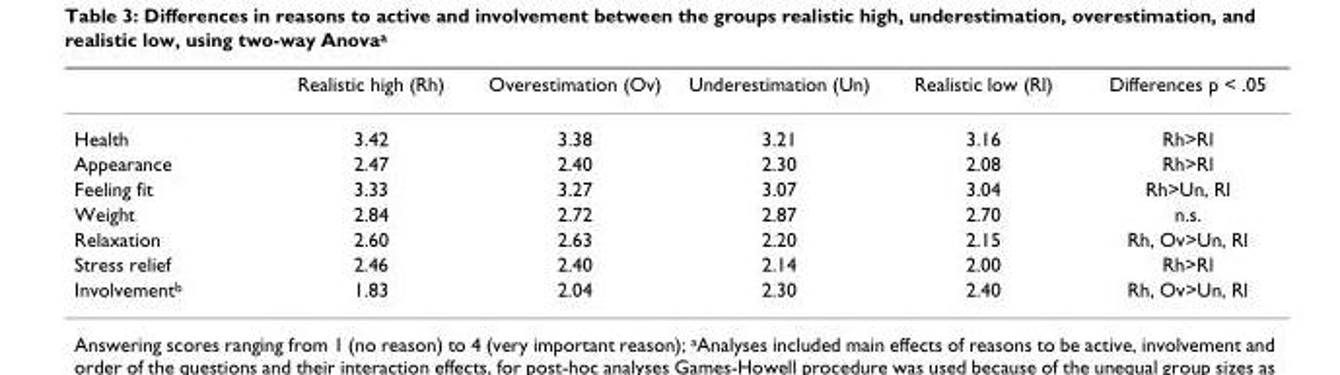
<table><thead><tr><td></td><td>Realistic high (Rh)</td><td>Overestimation (Ov)</td><td>Underestimation (Un)</td><td>Realistic low (Rl)</td><td>Differences p &lt; .05</td></tr></thead><tbody><tr><td>Health</td><td>3.42</td><td>3.38</td><td>3.21</td><td>3.16</td><td>Rh&gt;Rl</td></tr><tr><td>Appearance</td><td>2.47</td><td>2.40</td><td>2.30</td><td>2.08</td><td>Rh&gt;Rl</td></tr><tr><td>Feeling fit</td><td>3.33</td><td>3.27</td><td>3.07</td><td>3.04</td><td>Rh&gt;Un, Rl</td></tr><tr><td>Weight</td><td>2.84</td><td>2.72</td><td>2.87</td><td>2.70</td><td>n.s.</td></tr><tr><td>Relaxation</td><td>2.60</td><td>2.63</td><td>2.20</td><td>2.15</td><td>Rh, Ov&gt;Un, Rl</td></tr><tr><td>Stress relief</td><td>2.46</td><td>2.40</td><td>2.14</td><td>2.00</td><td>Rh&gt;Rl</td></tr><tr><td>Involvement<sup>b</sup></td><td>1.83</td><td>2.04</td><td>2.30</td><td>2.40</td><td>Rh, Ov&gt;Un, Rl</td></tr></tbody></table>